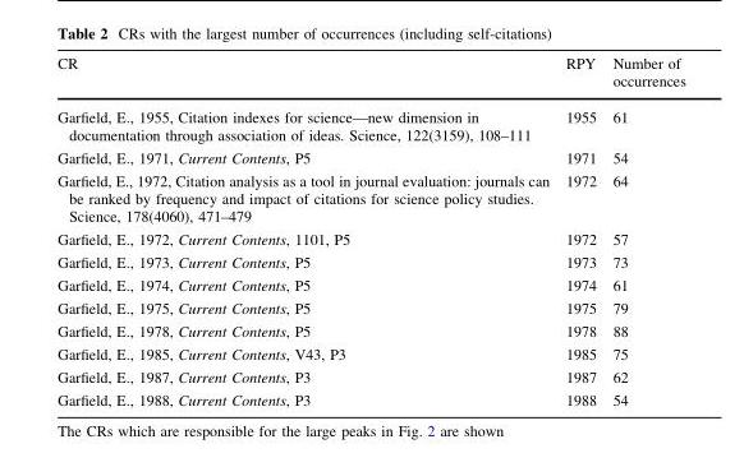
<table><thead><tr><td>CR</td><td>RPY</td><td>Number of occurrences</td></tr></thead><tbody><tr><td>Garfield, E., 1955, Citation indexes for science—new dimension in documentation through association of ideas. Science, 122(3159), 108–111</td><td>1955</td><td>61</td></tr><tr><td>Garfield, E., 1971, Current Contents, P5</td><td>1971</td><td>54</td></tr><tr><td>Garfield, E., 1972, Citation analysis as a tool in journal evaluation: journals can be ranked by frequency and impact of citations for science policy studies. Science, 178(4060), 471–479</td><td>1972</td><td>64</td></tr><tr><td>Garfield, E., 1972, Current Contents, 1101, P5</td><td>1972</td><td>57</td></tr><tr><td>Garfield, E., 1973, Current Contents, P5</td><td>1973</td><td>73</td></tr><tr><td>Garfield, E., 1974, Current Contents, P5</td><td>1974</td><td>61</td></tr><tr><td>Garfield, E., 1975, Current Contents, P5</td><td>1975</td><td>79</td></tr><tr><td>Garfield, E., 1978, Current Contents, P5</td><td>1978</td><td>88</td></tr><tr><td>Garfield, E., 1985, Current Contents, V43, P3</td><td>1985</td><td>75</td></tr><tr><td>Garfield, E., 1987, Current Contents, P3</td><td>1987</td><td>62</td></tr><tr><td>Garfield, E., 1988, Current Contents, P3</td><td>1988</td><td>54</td></tr></tbody></table>